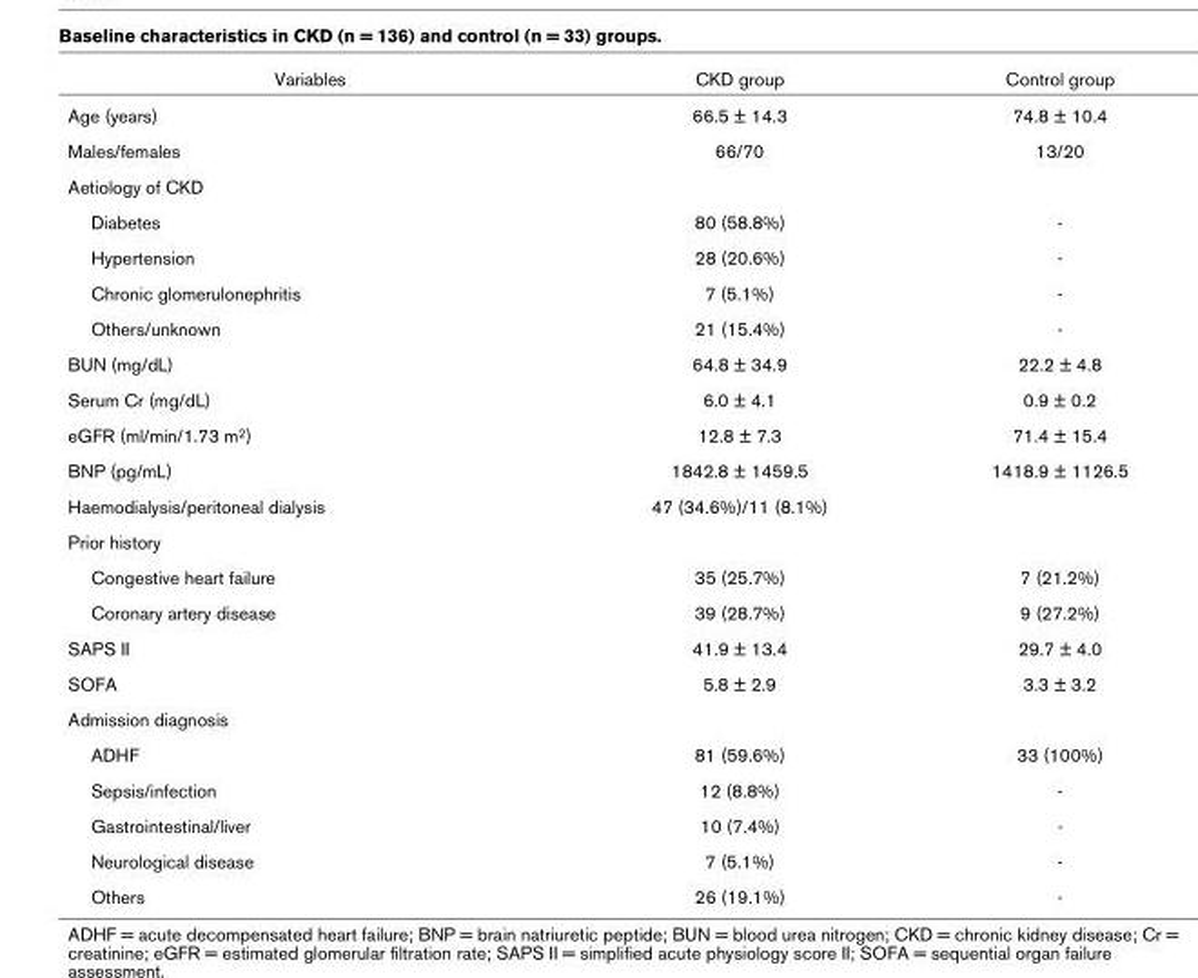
<table><thead><tr><td>Variables</td><td>CKD group</td><td>Control group</td></tr></thead><tbody><tr><td>Age (years)</td><td>66.5 ± 14.3</td><td>74.8 ± 10.4</td></tr><tr><td>Males/females</td><td>66/70</td><td>13/20</td></tr><tr><td colspan="3">Aetiology of CKD</td></tr><tr><td>Diabetes</td><td>80 (58.8%)</td><td>-</td></tr><tr><td>Hypertension</td><td>28 (20.6%)</td><td>-</td></tr><tr><td>Chronic glomerulonephritis</td><td>7 (5.1%)</td><td>-</td></tr><tr><td>Others/unknown</td><td>21 (15.4%)</td><td>-</td></tr><tr><td>BUN (mg/dL)</td><td>64.8 ± 34.9</td><td>22.2 ± 4.8</td></tr><tr><td>Serum Cr (mg/dL)</td><td>6.0 ± 4.1</td><td>0.9 ± 0.2</td></tr><tr><td>eGFR (ml/min/1.73 m<sup>2</sup>)</td><td>12.8 ± 7.3</td><td>71.4 ± 15.4</td></tr><tr><td>BNP (pg/mL)</td><td>1842.8 ± 1459.5</td><td>1418.9 ± 1126.5</td></tr><tr><td>Haemodialysis/peritoneal dialysis</td><td>47 (34.6%)/11 (8.1%)</td><td></td></tr><tr><td colspan="3">Prior history</td></tr><tr><td>Congestive heart failure</td><td>35 (25.7%)</td><td>7 (21.2%)</td></tr><tr><td>Coronary artery disease</td><td>39 (28.7%)</td><td>9 (27.2%)</td></tr><tr><td>SAPS II</td><td>41.9 ± 13.4</td><td>29.7 ± 4.0</td></tr><tr><td>SOFA</td><td>5.8 ± 2.9</td><td>3.3 ± 3.2</td></tr><tr><td colspan="3">Admission diagnosis</td></tr><tr><td>ADHF</td><td>81 (59.6%)</td><td>33 (100%)</td></tr><tr><td>Sepsis/infection</td><td>12 (8.8%)</td><td>-</td></tr><tr><td>Gastrointestinal/liver</td><td>10 (7.4%)</td><td>-</td></tr><tr><td>Neurological disease</td><td>7 (5.1%)</td><td>-</td></tr><tr><td>Others</td><td>26 (19.1%)</td><td>-</td></tr></tbody></table>